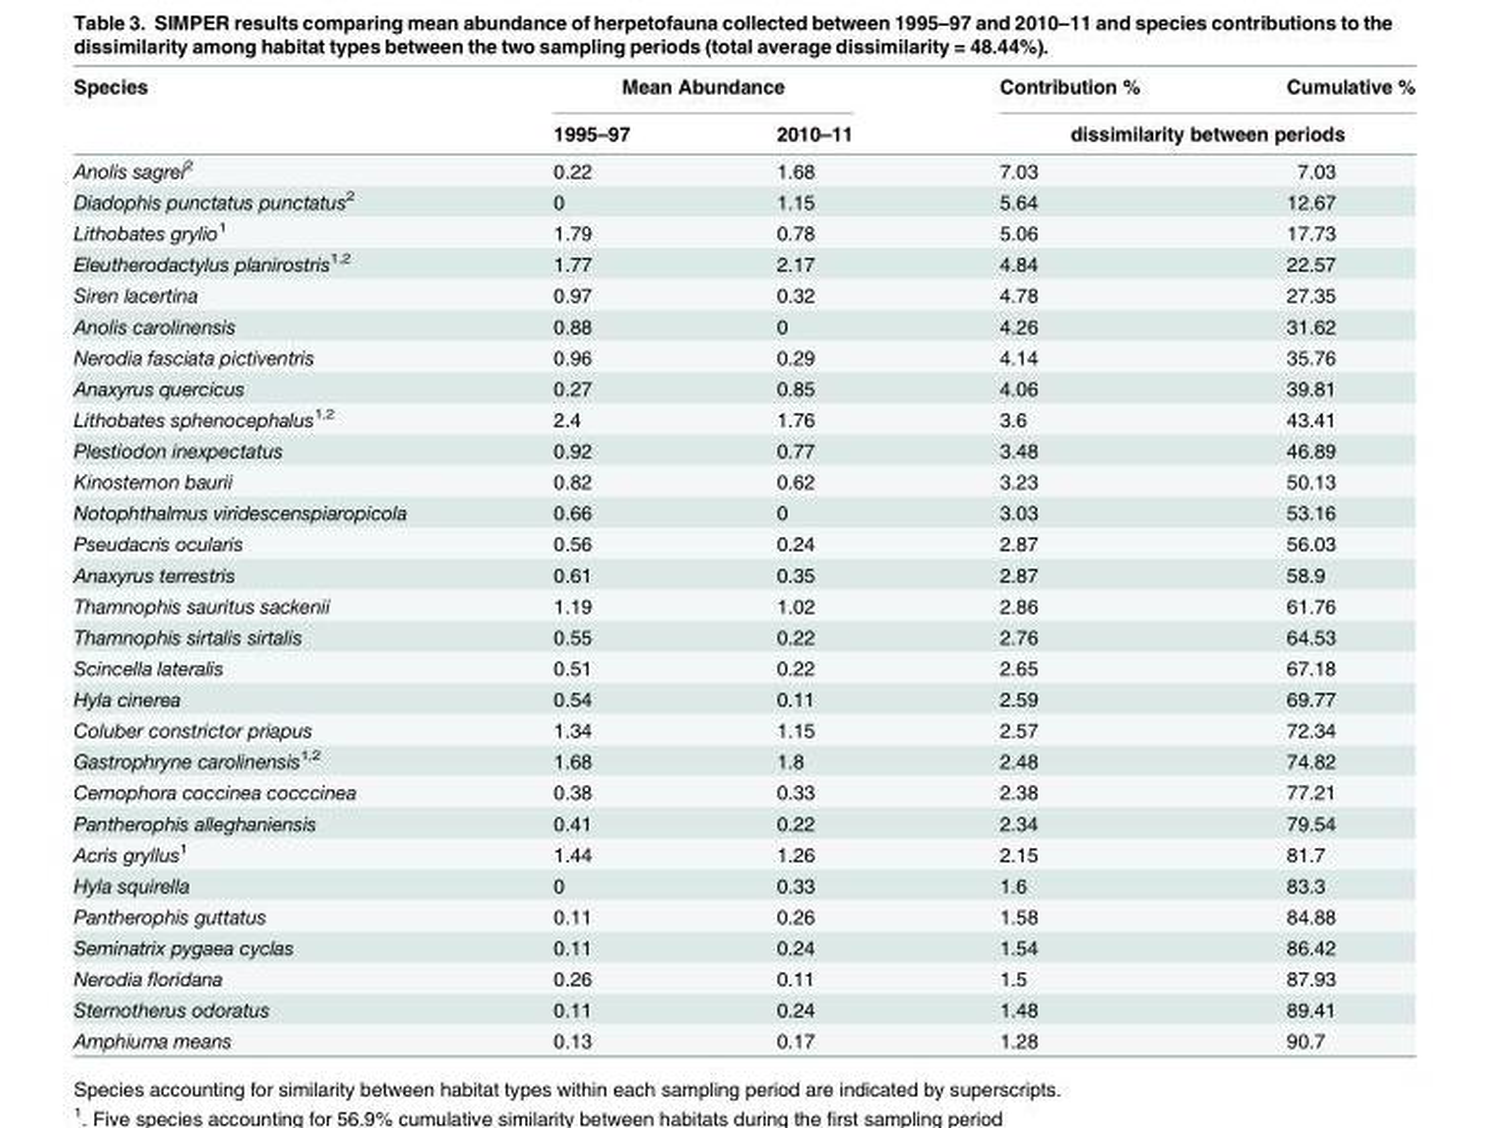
<table><thead><tr><td rowspan="2">Species</td><td colspan="2">Mean Abundance</td><td>Contribution %</td><td>Cumulative %</td></tr><tr><td>1995–97</td><td>2010–11</td><td colspan="2">dissimilarity between periods</td></tr></thead><tbody><tr><td>Anolis sagrei<sup>2</sup></td><td>0.22</td><td>1.68</td><td>7.03</td><td>7.03</td></tr><tr><td>Diadophis punctatus punctatus<sup>2</sup></td><td>0</td><td>1.15</td><td>5.64</td><td>12.67</td></tr><tr><td>Lithobates grylio<sup>1</sup></td><td>1.79</td><td>0.78</td><td>5.06</td><td>17.73</td></tr><tr><td>Eleutherodactylus planirostris<sup>1,2</sup></td><td>1.77</td><td>2.17</td><td>4.84</td><td>22.57</td></tr><tr><td>Siren lacertina</td><td>0.97</td><td>0.32</td><td>4.78</td><td>27.35</td></tr><tr><td>Anolis carolinensis</td><td>0.88</td><td>0</td><td>4.26</td><td>31.62</td></tr><tr><td>Nerodia fasciata pictiventris</td><td>0.96</td><td>0.29</td><td>4.14</td><td>35.76</td></tr><tr><td>Anaxyrus quercicus</td><td>0.27</td><td>0.85</td><td>4.06</td><td>39.81</td></tr><tr><td>Lithobates sphenocephalus<sup>1,2</sup></td><td>2.4</td><td>1.76</td><td>3.6</td><td>43.41</td></tr><tr><td>Plestiodon inexpectatus</td><td>0.92</td><td>0.77</td><td>3.48</td><td>46.89</td></tr><tr><td>Kinosternon baurii</td><td>0.82</td><td>0.62</td><td>3.23</td><td>50.13</td></tr><tr><td>Notophthalmus viridescenspiaropicola</td><td>0.66</td><td>0</td><td>3.03</td><td>53.16</td></tr><tr><td>Pseudacris ocularis</td><td>0.56</td><td>0.24</td><td>2.87</td><td>56.03</td></tr><tr><td>Anaxyrus terrestris</td><td>0.61</td><td>0.35</td><td>2.87</td><td>58.9</td></tr><tr><td>Thamnophis sauritus sackenii</td><td>1.19</td><td>1.02</td><td>2.86</td><td>61.76</td></tr><tr><td>Thamnophis sirtalis sirtalis</td><td>0.55</td><td>0.22</td><td>2.76</td><td>64.53</td></tr><tr><td>Scincella lateralis</td><td>0.51</td><td>0.22</td><td>2.65</td><td>67.18</td></tr><tr><td>Hyla cinerea</td><td>0.54</td><td>0.11</td><td>2.59</td><td>69.77</td></tr><tr><td>Coluber constrictor priapus</td><td>1.34</td><td>1.15</td><td>2.57</td><td>72.34</td></tr><tr><td>Gastrophryne carolinensis<sup>1,2</sup></td><td>1.68</td><td>1.8</td><td>2.48</td><td>74.82</td></tr><tr><td>Cemophora coccinea cocccinea</td><td>0.38</td><td>0.33</td><td>2.38</td><td>77.21</td></tr><tr><td>Pantherophis alleghaniensis</td><td>0.41</td><td>0.22</td><td>2.34</td><td>79.54</td></tr><tr><td>Acris gryllus<sup>1</sup></td><td>1.44</td><td>1.26</td><td>2.15</td><td>81.7</td></tr><tr><td>Hyla squirella</td><td>0</td><td>0.33</td><td>1.6</td><td>83.3</td></tr><tr><td>Pantherophis guttatus</td><td>0.11</td><td>0.26</td><td>1.58</td><td>84.88</td></tr><tr><td>Seminatrix pygaea cyclas</td><td>0.11</td><td>0.24</td><td>1.54</td><td>86.42</td></tr><tr><td>Nerodia floridana</td><td>0.26</td><td>0.11</td><td>1.5</td><td>87.93</td></tr><tr><td>Sternotherus odoratus</td><td>0.11</td><td>0.24</td><td>1.48</td><td>89.41</td></tr><tr><td>Amphiuma means</td><td>0.13</td><td>0.17</td><td>1.28</td><td>90.7</td></tr></tbody></table>